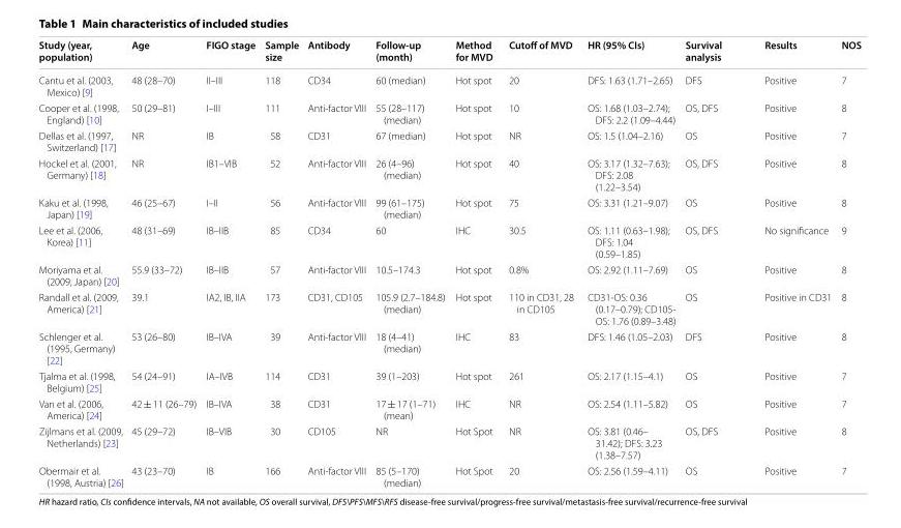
<table><thead><tr><td>Study (year, population)</td><td>Age</td><td>FIGO stage</td><td>Sample size</td><td>Antibody</td><td>Follow-up (month)</td><td>Method for MVD</td><td>Cutoff of MVD</td><td>HR (95% CIs)</td><td>Survival analysis</td><td>Results</td><td>NOS</td></tr></thead><tbody><tr><td>Cantu et al. (2003, Mexico) [9]</td><td>48 (28–70)</td><td>II–III</td><td>118</td><td>CD34</td><td>60 (median)</td><td>Hot spot</td><td>20</td><td>DFS: 1.63 (1.71–2.65)</td><td>DFS</td><td>Positive</td><td>7</td></tr><tr><td>Cooper et al. (1998, England) [10]</td><td>50 (29–81)</td><td>I–III</td><td>111</td><td>Anti-factor VIII</td><td>55 (28–117) (median)</td><td>Hot spot</td><td>10</td><td>OS: 1.68 (1.03–2.74); DFS: 2.2 (1.09–4.44)</td><td>OS, DFS</td><td>Positive</td><td>8</td></tr><tr><td>Dellas et al. (1997, Switzerland) [17]</td><td>NR</td><td>IB</td><td>58</td><td>CD31</td><td>67 (median)</td><td>Hot spot</td><td>NR</td><td>OS: 1.5 (1.04–2.16)</td><td>OS</td><td>Positive</td><td>7</td></tr><tr><td>Hockel et al. (2001, Germany) [18]</td><td>NR</td><td>IB1–VIB</td><td>52</td><td>Anti-factor VIII</td><td>26 (4–96) (median)</td><td>Hot spot</td><td>40</td><td>OS: 3.17 (1.32–7.63); DFS: 2.08 (1.22–3.54)</td><td>OS, DFS</td><td>Positive</td><td>8</td></tr><tr><td>Kaku et al. (1998, Japan) [19]</td><td>46 (25–67)</td><td>I–II</td><td>56</td><td>Anti-factor VIII</td><td>99 (61–175) (median)</td><td>Hot spot</td><td>75</td><td>OS: 3.31 (1.21–9.07)</td><td>OS</td><td>Positive</td><td>8</td></tr><tr><td>Lee et al. (2006, Korea) [11]</td><td>48 (31–69)</td><td>IB–IIB</td><td>85</td><td>CD34</td><td>60</td><td>IHC</td><td>30.5</td><td>OS: 1.11 (0.63–1.98); DFS: 1.04 (0.59–1.85)</td><td>OS, DFS</td><td>No significance</td><td>9</td></tr><tr><td>Moriyama et al. (2009, Japan) [20]</td><td>55.9 (33–72)</td><td>IB–IIB</td><td>57</td><td>Anti-factor VIII</td><td>10.5–174.3</td><td>Hot spot</td><td>0.8%</td><td>OS: 2.92 (1.11–7.69)</td><td>OS</td><td>Positive</td><td>8</td></tr><tr><td>Randall et al. (2009, America) [21]</td><td>39.1</td><td>IA2, IB, IIA</td><td>173</td><td>CD31, CD105</td><td>105.9 (2.7–184.8) (median)</td><td>Hot spot</td><td>110 in CD31, 28 in CD105</td><td>CD31-OS: 0.36 (0.17–0.79); CD105- OS: 1.76 (0.89–3.48)</td><td>OS</td><td>Positive in CD31</td><td>8</td></tr><tr><td>Schlenger et al. (1995, Germany) [22]</td><td>53 (26–80)</td><td>IB–IVA</td><td>39</td><td>Anti-factor VIII</td><td>18 (4–41) (median)</td><td>IHC</td><td>83</td><td>DFS: 1.46 (1.05–2.03)</td><td>DFS</td><td>Positive</td><td>8</td></tr><tr><td>Tjalma et al. (1998, Belgium) [25]</td><td>54 (24–91)</td><td>IA–IVB</td><td>114</td><td>CD31</td><td>39 (1–203)</td><td>Hot spot</td><td>261</td><td>OS: 2.17 (1.15–4.1)</td><td>OS</td><td>Positive</td><td>7</td></tr><tr><td>Van et al. (2006, America) [24]</td><td>42 ± 11 (26–79)</td><td>IB–IVA</td><td>38</td><td>CD31</td><td>17 ± 17 (1–71) (mean)</td><td>IHC</td><td>NR</td><td>OS: 2.54 (1.11–5.82)</td><td>OS</td><td>Positive</td><td>7</td></tr><tr><td>Zijlmans et al. (2009, Netherlands) [23]</td><td>45 (29–72)</td><td>IB–VIB</td><td>30</td><td>CD105</td><td>NR</td><td>Hot Spot</td><td>NR</td><td>OS: 3.81 (0.46– 31.42); DFS: 3.23 (1.38–7.57)</td><td>OS, DFS</td><td>Positive</td><td>8</td></tr><tr><td>Obermair et al. (1998, Austria) [26]</td><td>43 (23–70)</td><td>IB</td><td>166</td><td>Anti-factor VIII</td><td>85 (5–170) (median)</td><td>Hot Spot</td><td>20</td><td>OS: 2.56 (1.59–4.11)</td><td>OS</td><td>Positive</td><td>7</td></tr></tbody></table>